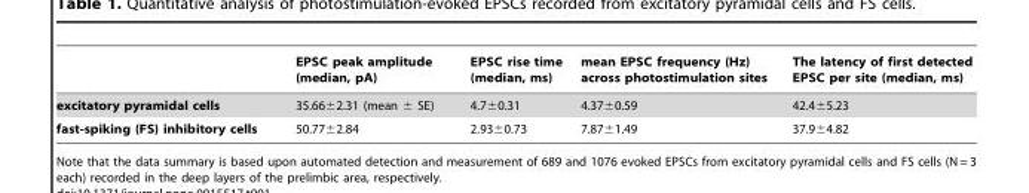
<table><thead><tr><td></td><td>EPSC peak amplitude (median, pA)</td><td>EPSC rise time (median, ms)</td><td>mean EPSC frequency (Hz) across photostimulation sites</td><td>The latency of first detected EPSC per site (median, ms)</td></tr></thead><tbody><tr><td>excitatory pyramidal cells</td><td>35.66±2.31 (mean ± SE)</td><td>4.7±0.31</td><td>4.37±0.59</td><td>42.4±5.23</td></tr><tr><td>fast-spiking (FS) inhibitory cells</td><td>50.77±2.84</td><td>2.93±0.73</td><td>7.87±1.49</td><td>37.9±4.82</td></tr></tbody></table>